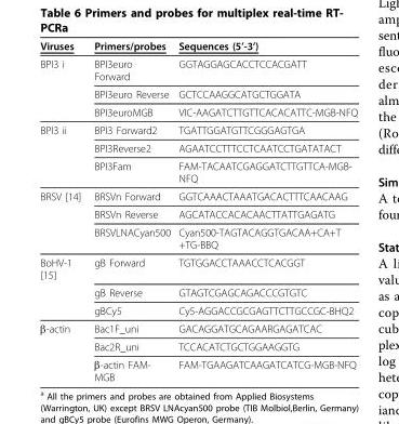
<table><thead><tr><td>Viruses</td><td>Primers/probes</td><td>Sequences (5’-3’)</td></tr></thead><tbody><tr><td rowspan="3">BPI3 i</td><td>BPI3euro Forward</td><td>GGTAGGAGCACCTCCACGATT</td></tr><tr><td>BPI3euro Reverse</td><td>GCTCCAAGGCATGCTGGATA</td></tr><tr><td>BPI3euroMGB</td><td>VIC-AAGATCTTGTTCACACATTC-MGB-NFQ</td></tr><tr><td rowspan="3">BPI3 ii</td><td>BPI3 Forward2</td><td>TGATTGGATGTTCGGGAGTGA</td></tr><tr><td>BPI3Reverse2</td><td>AGAATCCTTTCCTCAATCCTGATATACT</td></tr><tr><td>BPI3Fam</td><td>FAM-TACAATCGAGGATCTTGTTCA-MGB- NFQ</td></tr><tr><td rowspan="3">BRSV [14]</td><td>BRSVn Forward</td><td>GGTCAAACTAAATGACACTTTCAACAAG</td></tr><tr><td>BRSVn Reverse</td><td>AGCATACCACACAACTTATTGAGATG</td></tr><tr><td>BRSVLNACyan500</td><td>Cyan500-TAGTACAGGTGACAA+CA+T +TG-BBQ</td></tr><tr><td rowspan="3">BoHV-1 [15]</td><td>gB Forward</td><td>TGTGGACCTAAACCTCACGGT</td></tr><tr><td>gB Reverse</td><td>GTAGTCGAGCAGACCCGTGTC</td></tr><tr><td>gBCy5</td><td>Cy5-AGGACCGCGAGTTCTTGCCGC-BHQ2</td></tr><tr><td rowspan="3">β-actin</td><td>Bac1F_uni</td><td>GACAGGATGCAGAARGAGATCAC</td></tr><tr><td>Bac2R_uni</td><td>TCCACATCTGCTGGAAGGTG</td></tr><tr><td>β-actin FAM- MGB</td><td>FAM-TGAAGATCAAGATCATCG-MGB-NFQ</td></tr></tbody></table>